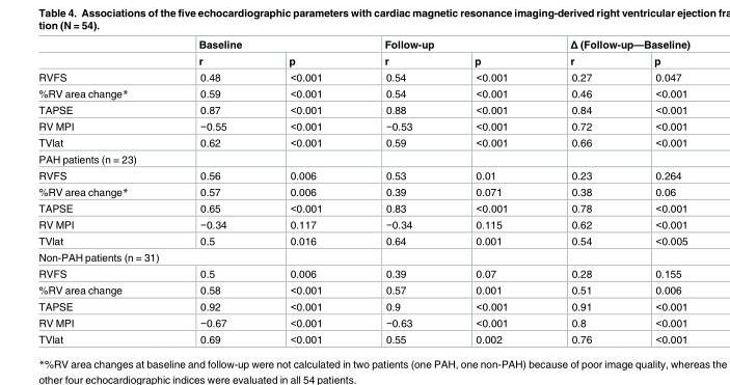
<table><thead><tr><td rowspan="2"></td><td colspan="2">Baseline</td><td colspan="2">Follow-up</td><td colspan="2">Δ (Follow-up—Baseline)</td></tr><tr><td>r</td><td>p</td><td>r</td><td>p</td><td>r</td><td>p</td></tr></thead><tbody><tr><td>RVFS</td><td>0.48</td><td>&lt;0.001</td><td>0.54</td><td>&lt;0.001</td><td>0.27</td><td>0.047</td></tr><tr><td>%RV area change*</td><td>0.59</td><td>&lt;0.001</td><td>0.54</td><td>&lt;0.001</td><td>0.46</td><td>&lt;0.001</td></tr><tr><td>TAPSE</td><td>0.87</td><td>&lt;0.001</td><td>0.88</td><td>&lt;0.001</td><td>0.84</td><td>&lt;0.001</td></tr><tr><td>RV MPI</td><td>−0.55</td><td>&lt;0.001</td><td>−0.53</td><td>&lt;0.001</td><td>0.72</td><td>&lt;0.001</td></tr><tr><td>TVlat</td><td>0.62</td><td>&lt;0.001</td><td>0.59</td><td>&lt;0.001</td><td>0.66</td><td>&lt;0.001</td></tr><tr><td colspan="7">PAH patients (n = 23)</td></tr><tr><td>RVFS</td><td>0.56</td><td>0.006</td><td>0.53</td><td>0.01</td><td>0.23</td><td>0.264</td></tr><tr><td>%RV area change*</td><td>0.57</td><td>0.006</td><td>0.39</td><td>0.071</td><td>0.38</td><td>0.06</td></tr><tr><td>TAPSE</td><td>0.65</td><td>&lt;0.001</td><td>0.83</td><td>&lt;0.001</td><td>0.78</td><td>&lt;0.001</td></tr><tr><td>RV MPI</td><td>−0.34</td><td>0.117</td><td>−0.34</td><td>0.115</td><td>0.62</td><td>&lt;0.001</td></tr><tr><td>TVlat</td><td>0.5</td><td>0.016</td><td>0.64</td><td>0.001</td><td>0.54</td><td>&lt;0.005</td></tr><tr><td colspan="7">Non-PAH patients (n = 31)</td></tr><tr><td>RVFS</td><td>0.5</td><td>0.006</td><td>0.39</td><td>0.07</td><td>0.28</td><td>0.155</td></tr><tr><td>%RV area change</td><td>0.58</td><td>&lt;0.001</td><td>0.57</td><td>0.001</td><td>0.51</td><td>0.006</td></tr><tr><td>TAPSE</td><td>0.92</td><td>&lt;0.001</td><td>0.9</td><td>&lt;0.001</td><td>0.91</td><td>&lt;0.001</td></tr><tr><td>RV MPI</td><td>−0.67</td><td>&lt;0.001</td><td>−0.63</td><td>&lt;0.001</td><td>0.8</td><td>&lt;0.001</td></tr><tr><td>TVlat</td><td>0.69</td><td>&lt;0.001</td><td>0.55</td><td>0.002</td><td>0.76</td><td>&lt;0.001</td></tr></tbody></table>